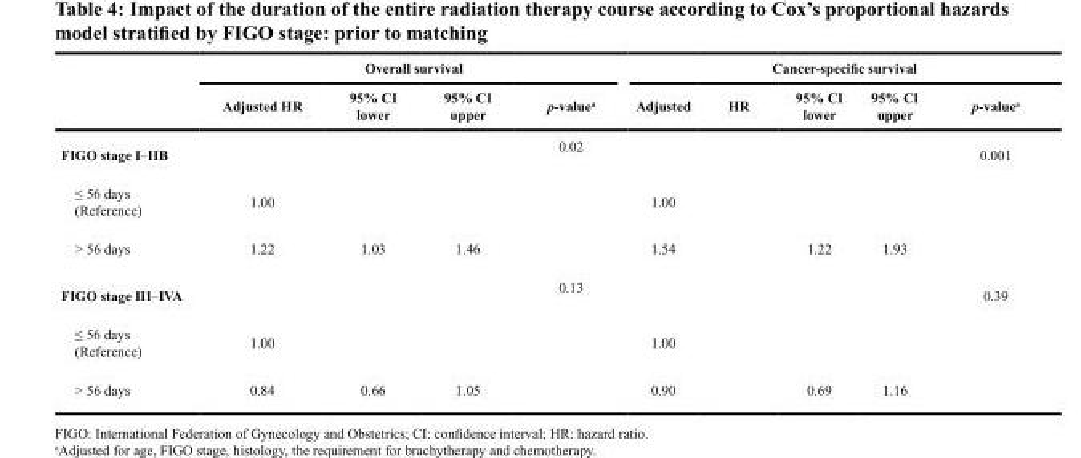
<table><thead><tr><td rowspan="2"></td><td colspan="4">Overall survival</td><td colspan="5">Cancer-specific survival</td></tr><tr><td>Adjusted HR</td><td>95% CI lower</td><td>95% CI upper</td><td>p-value<sup>a</sup></td><td>Adjusted</td><td>HR</td><td>95% CI lower</td><td>95% CI upper</td><td>p-value<sup>a</sup></td></tr></thead><tbody><tr><td>FIGO stage I–IIB</td><td></td><td></td><td></td><td>0.02</td><td></td><td></td><td></td><td></td><td>0.001</td></tr><tr><td>≤ 56 days (Reference)</td><td>1.00</td><td></td><td></td><td></td><td>1.00</td><td></td><td></td><td></td><td></td></tr><tr><td>&gt; 56 days</td><td>1.22</td><td>1.03</td><td>1.46</td><td></td><td>1.54</td><td></td><td>1.22</td><td>1.93</td><td></td></tr><tr><td>FIGO stage III–IVA</td><td></td><td></td><td></td><td>0.13</td><td></td><td></td><td></td><td></td><td>0.39</td></tr><tr><td>≤ 56 days (Reference)</td><td>1.00</td><td></td><td></td><td></td><td>1.00</td><td></td><td></td><td></td><td></td></tr><tr><td>&gt; 56 days</td><td>0.84</td><td>0.66</td><td>1.05</td><td></td><td>0.90</td><td></td><td>0.69</td><td>1.16</td><td></td></tr></tbody></table>